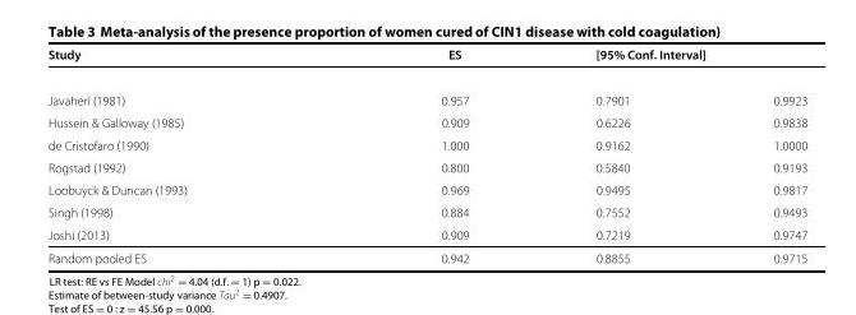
<table><thead><tr><td>Study</td><td>ES</td><td>[95% Conf. Interval]</td><td></td></tr></thead><tbody><tr><td>Javaheri (1981)</td><td>0.957</td><td>0.7901</td><td>0.9923</td></tr><tr><td>Hussein &amp; Galloway (1985)</td><td>0.909</td><td>0.6226</td><td>0.9838</td></tr><tr><td>de Cristofaro (1990)</td><td>1.000</td><td>0.9162</td><td>1.0000</td></tr><tr><td>Rogstad (1992)</td><td>0.800</td><td>0.5840</td><td>0.9193</td></tr><tr><td>Loobuyck &amp; Duncan (1993)</td><td>0.969</td><td>0.9495</td><td>0.9817</td></tr><tr><td>Singh (1998)</td><td>0.884</td><td>0.7552</td><td>0.9493</td></tr><tr><td>Joshi (2013)</td><td>0.909</td><td>0.7219</td><td>0.9747</td></tr><tr><td>Random pooled ES</td><td>0.942</td><td>0.8855</td><td>0.9715</td></tr></tbody></table>